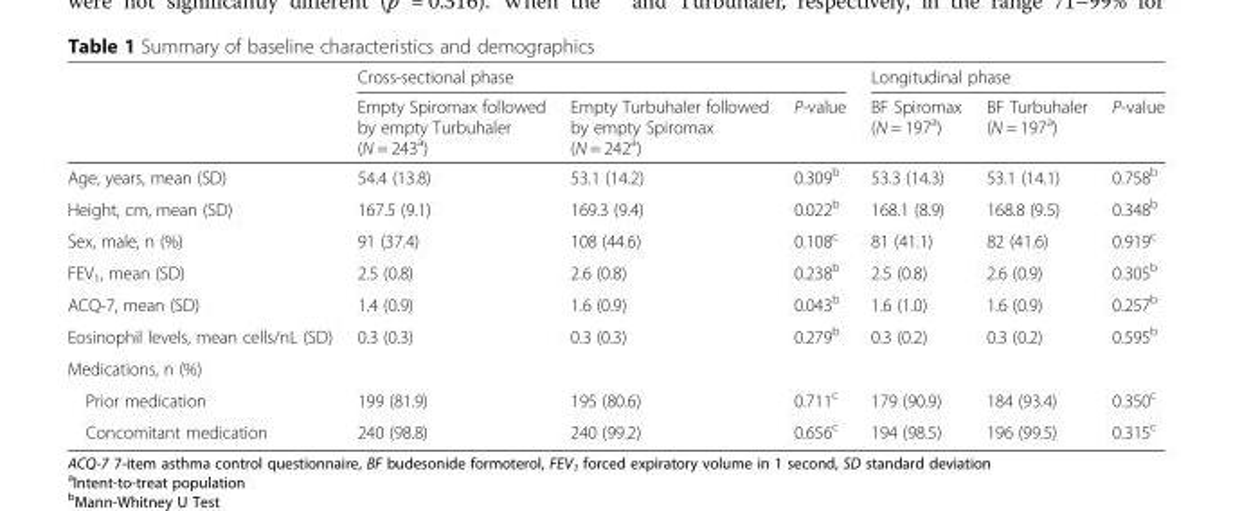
<table><thead><tr><td rowspan="2"></td><td colspan="3">Cross-sectional phase</td><td colspan="3">Longitudinal phase</td></tr><tr><td>Empty Spiromax followed by empty Turbuhaler (N = 243<sup>a</sup>)</td><td>Empty Turbuhaler followed by empty Spiromax (N = 242<sup>a</sup>)</td><td>P-value</td><td>BF Spiromax (N = 197<sup>a</sup>)</td><td>BF Turbuhaler (N = 197<sup>a</sup>)</td><td>P-value</td></tr></thead><tbody><tr><td>Age, years, mean (SD)</td><td>54.4 (13.8)</td><td>53.1 (14.2)</td><td>0.309<sup>b</sup></td><td>53.3 (14.3)</td><td>53.1 (14.1)</td><td>0.758<sup>b</sup></td></tr><tr><td>Height, cm, mean (SD)</td><td>167.5 (9.1)</td><td>169.3 (9.4)</td><td>0.022<sup>b</sup></td><td>168.1 (8.9)</td><td>168.8 (9.5)</td><td>0.348<sup>b</sup></td></tr><tr><td>Sex, male, n (%)</td><td>91 (37.4)</td><td>108 (44.6)</td><td>0.108<sup>c</sup></td><td>81 (41.1)</td><td>82 (41.6)</td><td>0.919<sup>c</sup></td></tr><tr><td>FEV<sub>1</sub>, mean (SD)</td><td>2.5 (0.8)</td><td>2.6 (0.8)</td><td>0.238<sup>b</sup></td><td>2.5 (0.8)</td><td>2.6 (0.9)</td><td>0.305<sup>b</sup></td></tr><tr><td>ACQ-7, mean (SD)</td><td>1.4 (0.9)</td><td>1.6 (0.9)</td><td>0.043<sup>b</sup></td><td>1.6 (1.0)</td><td>1.6 (0.9)</td><td>0.257<sup>b</sup></td></tr><tr><td>Eosinophil levels, mean cells/nL (SD)</td><td>0.3 (0.3)</td><td>0.3 (0.3)</td><td>0.279<sup>b</sup></td><td>0.3 (0.2)</td><td>0.3 (0.2)</td><td>0.595<sup>b</sup></td></tr><tr><td colspan="7">Medications, n (%)</td></tr><tr><td>Prior medication</td><td>199 (81.9)</td><td>195 (80.6)</td><td>0.711<sup>c</sup></td><td>179 (90.9)</td><td>184 (93.4)</td><td>0.350<sup>c</sup></td></tr><tr><td>Concomitant medication</td><td>240 (98.8)</td><td>240 (99.2)</td><td>0.656<sup>c</sup></td><td>194 (98.5)</td><td>196 (99.5)</td><td>0.315<sup>c</sup></td></tr></tbody></table>